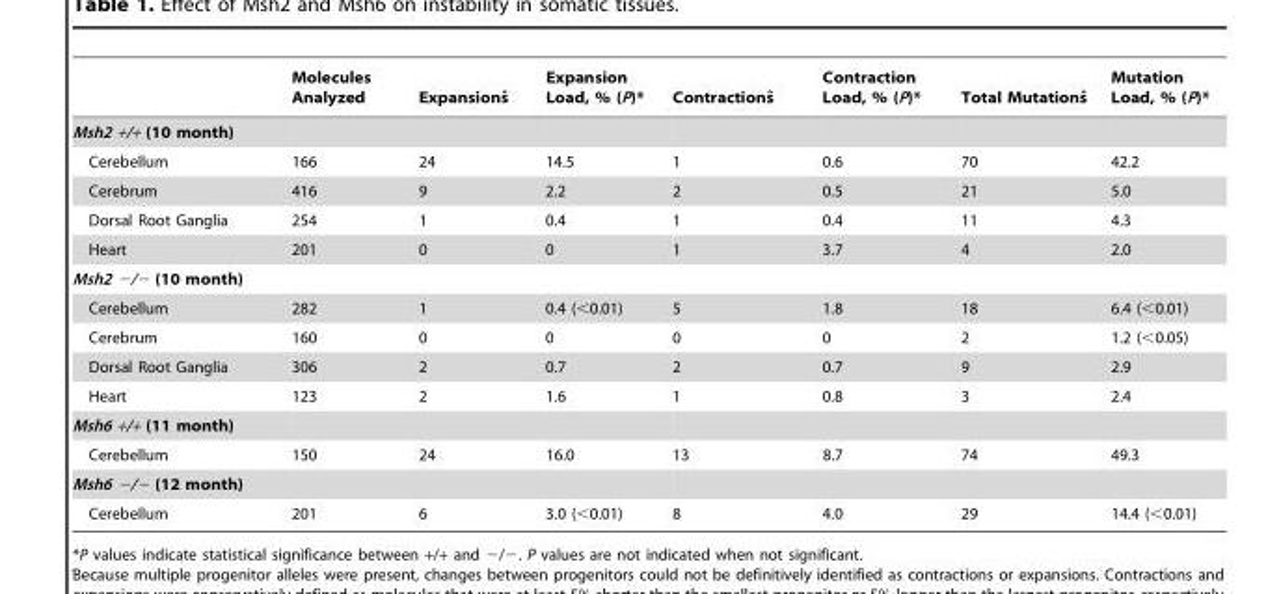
<table><thead><tr><td></td><td>Molecules Analyzed</td><td>Expansionsˆ</td><td>Expansion Load, % (P)*</td><td>Contractionsˆ</td><td>Contraction Load, % (P)*</td><td>Total Mutationsˆ</td><td>Mutation Load, % (P)*</td></tr></thead><tbody><tr><td colspan="8">Msh2 +/+ (10 month)</td></tr><tr><td>Cerebellum</td><td>166</td><td>24</td><td>14.5</td><td>1</td><td>0.6</td><td>70</td><td>42.2</td></tr><tr><td>Cerebrum</td><td>416</td><td>9</td><td>2.2</td><td>2</td><td>0.5</td><td>21</td><td>5.0</td></tr><tr><td>Dorsal Root Ganglia</td><td>254</td><td>1</td><td>0.4</td><td>1</td><td>0.4</td><td>11</td><td>4.3</td></tr><tr><td>Heart</td><td>201</td><td>0</td><td>0</td><td>1</td><td>3.7</td><td>4</td><td>2.0</td></tr><tr><td colspan="8">Msh2 −/− (10 month)</td></tr><tr><td>Cerebellum</td><td>282</td><td>1</td><td>0.4 (&lt;0.01)</td><td>5</td><td>1.8</td><td>18</td><td>6.4 (&lt;0.01)</td></tr><tr><td>Cerebrum</td><td>160</td><td>0</td><td>0</td><td>0</td><td>0</td><td>2</td><td>1.2 (&lt;0.05)</td></tr><tr><td>Dorsal Root Ganglia</td><td>306</td><td>2</td><td>0.7</td><td>2</td><td>0.7</td><td>9</td><td>2.9</td></tr><tr><td>Heart</td><td>123</td><td>2</td><td>1.6</td><td>1</td><td>0.8</td><td>3</td><td>2.4</td></tr><tr><td colspan="8">Msh6 +/+ (11 month)</td></tr><tr><td>Cerebellum</td><td>150</td><td>24</td><td>16.0</td><td>13</td><td>8.7</td><td>74</td><td>49.3</td></tr><tr><td colspan="8">Msh6 −/− (12 month)</td></tr><tr><td>Cerebellum</td><td>201</td><td>6</td><td>3.0 (&lt;0.01)</td><td>8</td><td>4.0</td><td>29</td><td>14.4 (&lt;0.01)</td></tr></tbody></table>